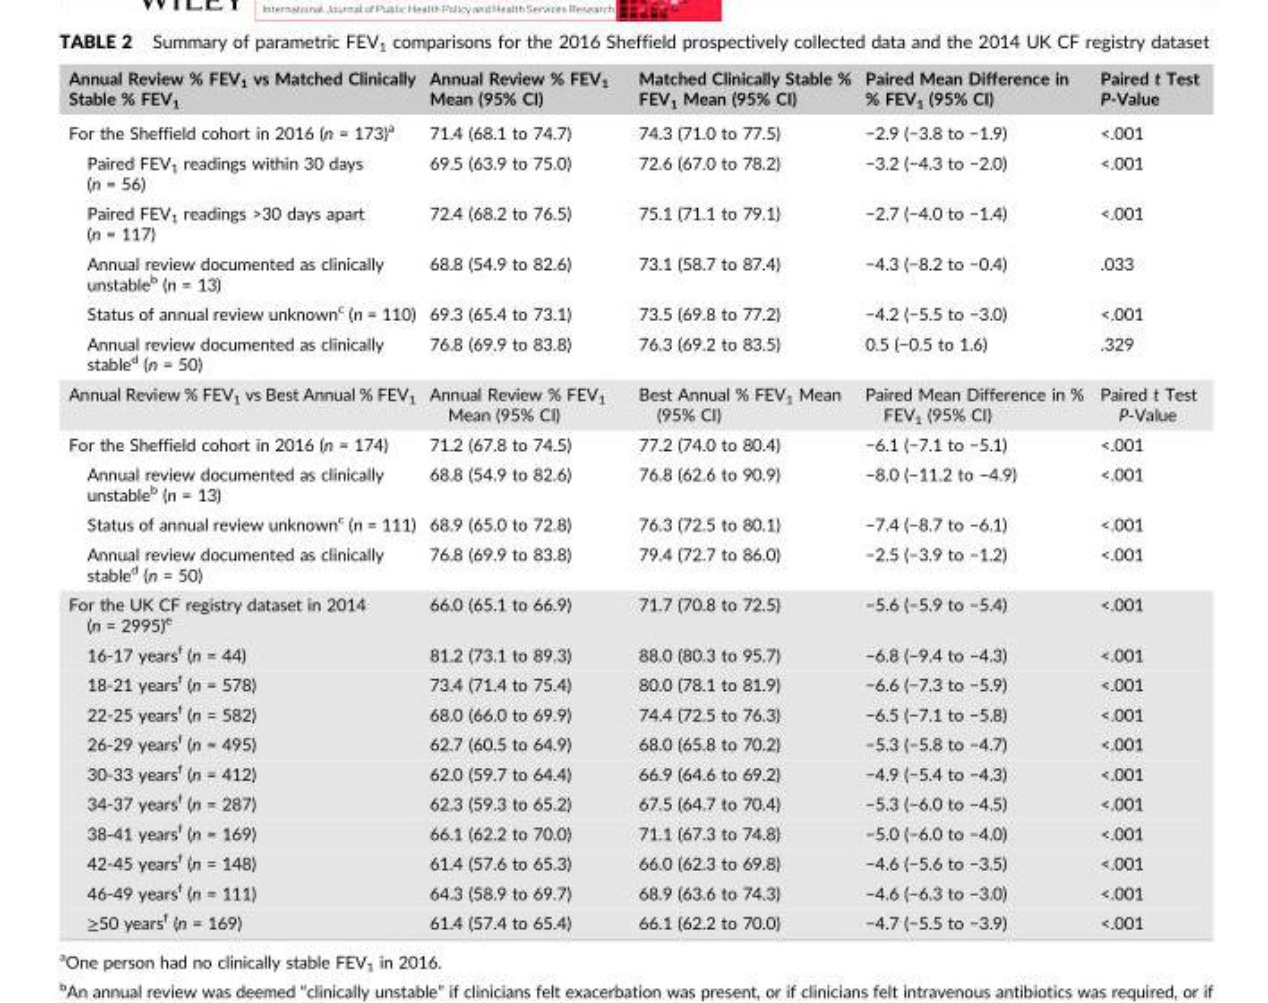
<table><thead><tr><td>Annual Review % FEV<sub>1</sub> vs Matched Clinically Stable % FEV<sub>1</sub></td><td>Annual Review % FEV<sub>1</sub> Mean (95% CI)</td><td>Matched Clinically Stable % FEV<sub>1</sub> Mean (95% CI)</td><td>Paired Mean Difference in % FEV<sub>1</sub> (95% CI)</td><td>Paired t Test P‐Value</td></tr></thead><tbody><tr><td>For the Sheffield cohort in 2016 (n = 173)<sup>a</sup></td><td>71.4 (68.1 to 74.7)</td><td>74.3 (71.0 to 77.5)</td><td>−2.9 (−3.8 to −1.9)</td><td>&lt;.001</td></tr><tr><td>Paired FEV<sub>1</sub> readings within 30 days (n = 56)</td><td>69.5 (63.9 to 75.0)</td><td>72.6 (67.0 to 78.2)</td><td>−3.2 (−4.3 to −2.0)</td><td>&lt;.001</td></tr><tr><td>Paired FEV<sub>1</sub> readings &gt;30 days apart (n = 117)</td><td>72.4 (68.2 to 76.5)</td><td>75.1 (71.1 to 79.1)</td><td>−2.7 (−4.0 to −1.4)</td><td>&lt;.001</td></tr><tr><td>Annual review documented as clinically unstable<sup>b</sup> (n = 13)</td><td>68.8 (54.9 to 82.6)</td><td>73.1 (58.7 to 87.4)</td><td>−4.3 (−8.2 to −0.4)</td><td>.033</td></tr><tr><td>Status of annual review unknown<sup>c</sup> (n = 110)</td><td>69.3 (65.4 to 73.1)</td><td>73.5 (69.8 to 77.2)</td><td>−4.2 (−5.5 to −3.0)</td><td>&lt;.001</td></tr><tr><td>Annual review documented as clinically stable<sup>d</sup> (n = 50)</td><td>76.8 (69.9 to 83.8)</td><td>76.3 (69.2 to 83.5)</td><td>0.5 (−0.5 to 1.6)</td><td>.329</td></tr><tr><td>Annual Review % FEV<sub>1</sub> vs Best Annual % FEV<sub>1</sub></td><td>Annual Review % FEV<sub>1</sub> Mean (95% CI)</td><td>Best Annual % FEV<sub>1</sub> Mean (95% CI)</td><td>Paired Mean Difference in % FEV<sub>1</sub> (95% CI)</td><td>Paired t Test P‐Value</td></tr><tr><td>For the Sheffield cohort in 2016 (n = 174)</td><td>71.2 (67.8 to 74.5)</td><td>77.2 (74.0 to 80.4)</td><td>−6.1 (−7.1 to −5.1)</td><td>&lt;.001</td></tr><tr><td>Annual review documented as clinically unstable<sup>b</sup> (n = 13)</td><td>68.8 (54.9 to 82.6)</td><td>76.8 (62.6 to 90.9)</td><td>−8.0 (−11.2 to −4.9)</td><td>&lt;.001</td></tr><tr><td>Status of annual review unknown<sup>c</sup> (n = 111)</td><td>68.9 (65.0 to 72.8)</td><td>76.3 (72.5 to 80.1)</td><td>−7.4 (−8.7 to −6.1)</td><td>&lt;.001</td></tr><tr><td>Annual review documented as clinically stable<sup>d</sup> (n = 50)</td><td>76.8 (69.9 to 83.8)</td><td>79.4 (72.7 to 86.0)</td><td>−2.5 (−3.9 to −1.2)</td><td>&lt;.001</td></tr><tr><td>For the UK CF registry dataset in 2014 (n = 2995)<sup>e</sup></td><td>66.0 (65.1 to 66.9)</td><td>71.7 (70.8 to 72.5)</td><td>−5.6 (−5.9 to −5.4)</td><td>&lt;.001</td></tr><tr><td>16‐17 years<sup>f</sup> (n = 44)</td><td>81.2 (73.1 to 89.3)</td><td>88.0 (80.3 to 95.7)</td><td>−6.8 (−9.4 to −4.3)</td><td>&lt;.001</td></tr><tr><td>18‐21 years<sup>f</sup> (n = 578)</td><td>73.4 (71.4 to 75.4)</td><td>80.0 (78.1 to 81.9)</td><td>−6.6 (−7.3 to −5.9)</td><td>&lt;.001</td></tr><tr><td>22‐25 years<sup>f</sup> (n = 582)</td><td>68.0 (66.0 to 69.9)</td><td>74.4 (72.5 to 76.3)</td><td>−6.5 (−7.1 to −5.8)</td><td>&lt;.001</td></tr><tr><td>26‐29 years<sup>f</sup> (n = 495)</td><td>62.7 (60.5 to 64.9)</td><td>68.0 (65.8 to 70.2)</td><td>−5.3 (−5.8 to −4.7)</td><td>&lt;.001</td></tr><tr><td>30‐33 years<sup>f</sup> (n = 412)</td><td>62.0 (59.7 to 64.4)</td><td>66.9 (64.6 to 69.2)</td><td>−4.9 (−5.4 to −4.3)</td><td>&lt;.001</td></tr><tr><td>34‐37 years<sup>f</sup> (n = 287)</td><td>62.3 (59.3 to 65.2)</td><td>67.5 (64.7 to 70.4)</td><td>−5.3 (−6.0 to −4.5)</td><td>&lt;.001</td></tr><tr><td>38‐41 years<sup>f</sup> (n = 169)</td><td>66.1 (62.2 to 70.0)</td><td>71.1 (67.3 to 74.8)</td><td>−5.0 (−6.0 to −4.0)</td><td>&lt;.001</td></tr><tr><td>42‐45 years<sup>f</sup> (n = 148)</td><td>61.4 (57.6 to 65.3)</td><td>66.0 (62.3 to 69.8)</td><td>−4.6 (−5.6 to −3.5)</td><td>&lt;.001</td></tr><tr><td>46‐49 years<sup>f</sup> (n = 111)</td><td>64.3 (58.9 to 69.7)</td><td>68.9 (63.6 to 74.3)</td><td>−4.6 (−6.3 to −3.0)</td><td>&lt;.001</td></tr><tr><td>≥50 years<sup>f</sup> (n = 169)</td><td>61.4 (57.4 to 65.4)</td><td>66.1 (62.2 to 70.0)</td><td>−4.7 (−5.5 to −3.9)</td><td>&lt;.001</td></tr></tbody></table>